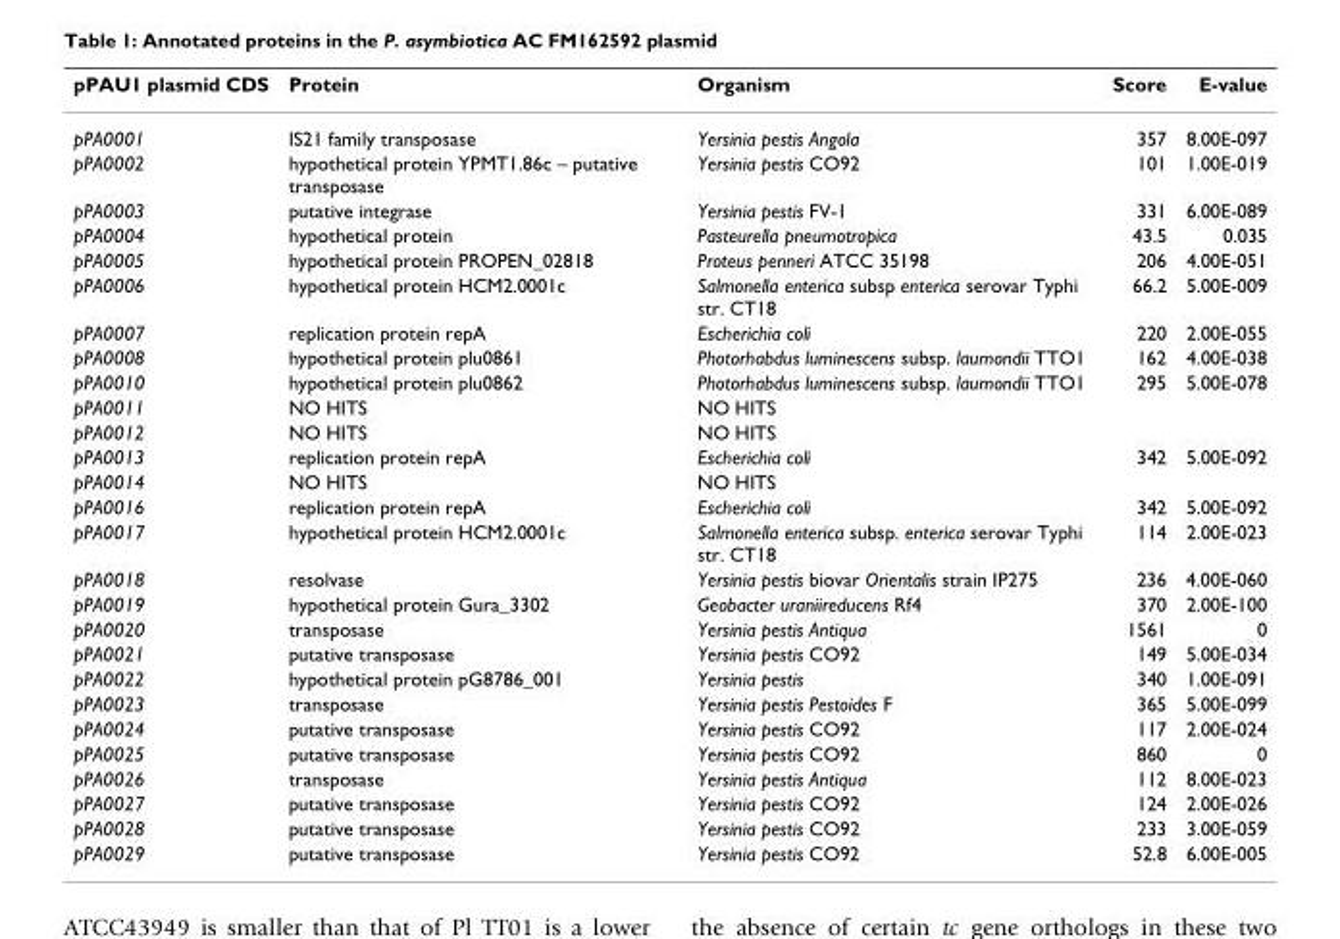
<table><thead><tr><td>pPAU1 plasmid CDS</td><td>Protein</td><td>Organism</td><td>Score</td><td>E-value</td></tr></thead><tbody><tr><td>pPA0001</td><td>IS21 family transposase</td><td>Yersinia pestis Angola</td><td>357</td><td>8.00E-097</td></tr><tr><td>pPA0002</td><td>hypothetical protein YPMT1.86c – putative transposase</td><td>Yersinia pestis CO92</td><td>101</td><td>1.00E-019</td></tr><tr><td>pPA0003</td><td>putative integrase</td><td>Yersinia pestis FV-1</td><td>331</td><td>6.00E-089</td></tr><tr><td>pPA0004</td><td>hypothetical protein</td><td>Pasteurella pneumotropica</td><td>43.5</td><td>0.035</td></tr><tr><td>pPA0005</td><td>hypothetical protein PROPEN_02818</td><td>Proteus penneri ATCC 35198</td><td>206</td><td>4.00E-051</td></tr><tr><td>pPA0006</td><td>hypothetical protein HCM2.0001c</td><td>Salmonella enterica subsp enterica serovar Typhi str. CT18</td><td>66.2</td><td>5.00E-009</td></tr><tr><td>pPA0007</td><td>replication protein repA</td><td>Escherichia coli</td><td>220</td><td>2.00E-055</td></tr><tr><td>pPA0008</td><td>hypothetical protein plu0861</td><td>Photorhabdus luminescens subsp. laumondii TTO1</td><td>162</td><td>4.00E-038</td></tr><tr><td>pPA0010</td><td>hypothetical protein plu0862</td><td>Photorhabdus luminescens subsp. laumondii TTO1</td><td>295</td><td>5.00E-078</td></tr><tr><td>pPA0011</td><td>NO HITS</td><td>NO HITS</td><td></td><td></td></tr><tr><td>pPA0012</td><td>NO HITS</td><td>NO HITS</td><td></td><td></td></tr><tr><td>pPA0013</td><td>replication protein repA</td><td>Escherichia coli</td><td>342</td><td>5.00E-092</td></tr><tr><td>pPA0014</td><td>NO HITS</td><td>NO HITS</td><td></td><td></td></tr><tr><td>pPA0016</td><td>replication protein repA</td><td>Escherichia coli</td><td>342</td><td>5.00E-092</td></tr><tr><td>pPA0017</td><td>hypothetical protein HCM2.0001c</td><td>Salmonella enterica subsp. enterica serovar Typhi str. CT18</td><td>114</td><td>2.00E-023</td></tr><tr><td>pPA0018</td><td>resolvase</td><td>Yersinia pestis biovar Orientalis strain IP275</td><td>236</td><td>4.00E-060</td></tr><tr><td>pPA0019</td><td>hypothetical protein Gura_3302</td><td>Geobacter uraniireducens Rf4</td><td>370</td><td>2.00E-100</td></tr><tr><td>pPA0020</td><td>transposase</td><td>Yersinia pestis Antiqua</td><td>1561</td><td>0</td></tr><tr><td>pPA0021</td><td>putative transposase</td><td>Yersinia pestis CO92</td><td>149</td><td>5.00E-034</td></tr><tr><td>pPA0022</td><td>hypothetical protein pG8786_001</td><td>Yersinia pestis</td><td>340</td><td>1.00E-091</td></tr><tr><td>pPA0023</td><td>transposase</td><td>Yersinia pestis Pestoides F</td><td>365</td><td>5.00E-099</td></tr><tr><td>pPA0024</td><td>putative transposase</td><td>Yersinia pestis CO92</td><td>117</td><td>2.00E-024</td></tr><tr><td>pPA0025</td><td>putative transposase</td><td>Yersinia pestis CO92</td><td>860</td><td>0</td></tr><tr><td>pPA0026</td><td>transposase</td><td>Yersinia pestis Antiqua</td><td>112</td><td>8.00E-023</td></tr><tr><td>pPA0027</td><td>putative transposase</td><td>Yersinia pestis CO92</td><td>124</td><td>2.00E-026</td></tr><tr><td>pPA0028</td><td>putative transposase</td><td>Yersinia pestis CO92</td><td>233</td><td>3.00E-059</td></tr><tr><td>pPA0029</td><td>putative transposase</td><td>Yersinia pestis CO92</td><td>52.8</td><td>6.00E-005</td></tr></tbody></table>